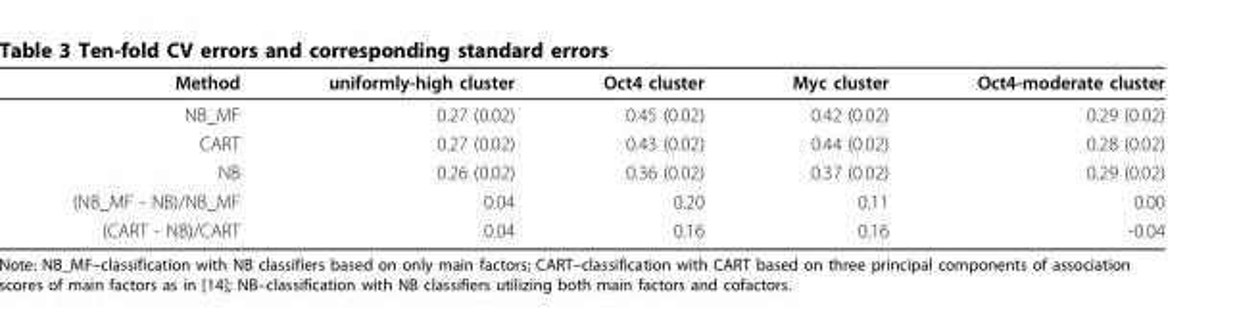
<table><thead><tr><td>Method</td><td>uniformly-high cluster</td><td>Oct4 cluster</td><td>Myc cluster</td><td>Oct4-moderate cluster</td></tr></thead><tbody><tr><td>NB_MF</td><td>0.27 (0.02)</td><td>0.45 (0.02)</td><td>0.42 (0.02)</td><td>0.29 (0.02)</td></tr><tr><td>CART</td><td>0.27 (0.02)</td><td>0.43 (0.02)</td><td>0.44 (0.02)</td><td>0.28 (0.02)</td></tr><tr><td>NB</td><td>0.26 (0.02)</td><td>0.36 (0.02)</td><td>0.37 (0.02)</td><td>0.29 (0.02)</td></tr><tr><td>(NB_MF - NB)/NB_MF</td><td>0.04</td><td>0.20</td><td>0.11</td><td>0.00</td></tr><tr><td>(CART - NB)/CART</td><td>0.04</td><td>0.16</td><td>0.16</td><td>-0.04</td></tr></tbody></table>